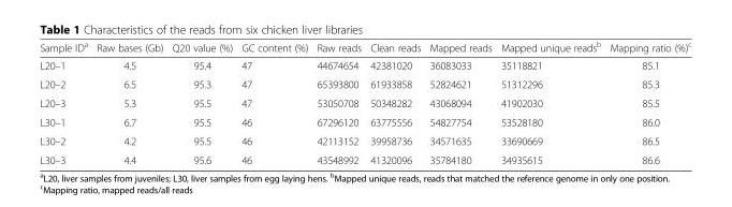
<table><thead><tr><td>Sample ID<sup>a</sup></td><td>Raw bases (Gb)</td><td>Q20 value (%)</td><td>GC content (%)</td><td>Raw reads</td><td>Clean reads</td><td>Mapped reads</td><td>Mapped unique reads<sup>b</sup></td><td>Mapping ratio (%)<sup>c</sup></td></tr></thead><tbody><tr><td>L20–1</td><td>4.5</td><td>95.4</td><td>47</td><td>44674654</td><td>42381020</td><td>36083033</td><td>35118821</td><td>85.1</td></tr><tr><td>L20–2</td><td>6.5</td><td>95.3</td><td>47</td><td>65393800</td><td>61933858</td><td>52824621</td><td>51312296</td><td>85.3</td></tr><tr><td>L20–3</td><td>5.3</td><td>95.5</td><td>47</td><td>53050708</td><td>50348282</td><td>43068094</td><td>41902030</td><td>85.5</td></tr><tr><td>L30–1</td><td>6.7</td><td>95.5</td><td>46</td><td>67296120</td><td>63775556</td><td>54827754</td><td>53528180</td><td>86.0</td></tr><tr><td>L30–2</td><td>4.2</td><td>95.5</td><td>46</td><td>42113152</td><td>39958736</td><td>34571635</td><td>33690669</td><td>86.5</td></tr><tr><td>L30–3</td><td>4.4</td><td>95.6</td><td>46</td><td>43548992</td><td>41320096</td><td>35784180</td><td>34935615</td><td>86.6</td></tr></tbody></table>